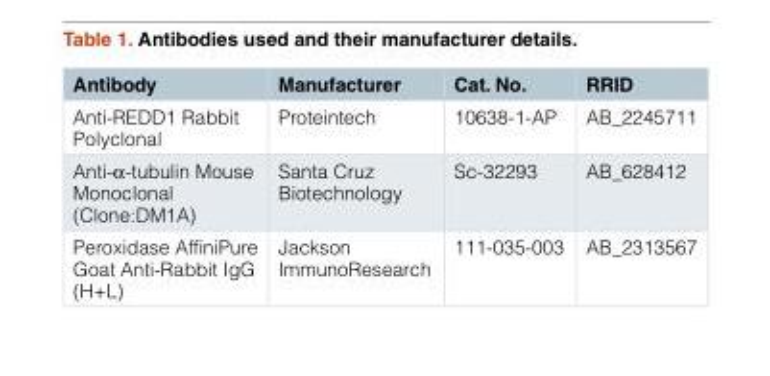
<table><thead><tr><td>Antibody</td><td>Manufacturer</td><td>Cat. No.</td><td>RRID</td></tr></thead><tbody><tr><td>Anti-REDD1 Rabbit Polyclonal</td><td>Proteintech</td><td>10638-1-AP</td><td>AB_2245711</td></tr><tr><td>Anti-α-tubulin Mouse Monoclonal (Clone:DM1A)</td><td>Santa Cruz Biotechnology</td><td>Sc-32293</td><td>AB_628412</td></tr><tr><td>Peroxidase AffiniPure Goat Anti-Rabbit IgG (H+L)</td><td>Jackson ImmunoResearch</td><td>111-035-003</td><td>AB_2313567</td></tr></tbody></table>